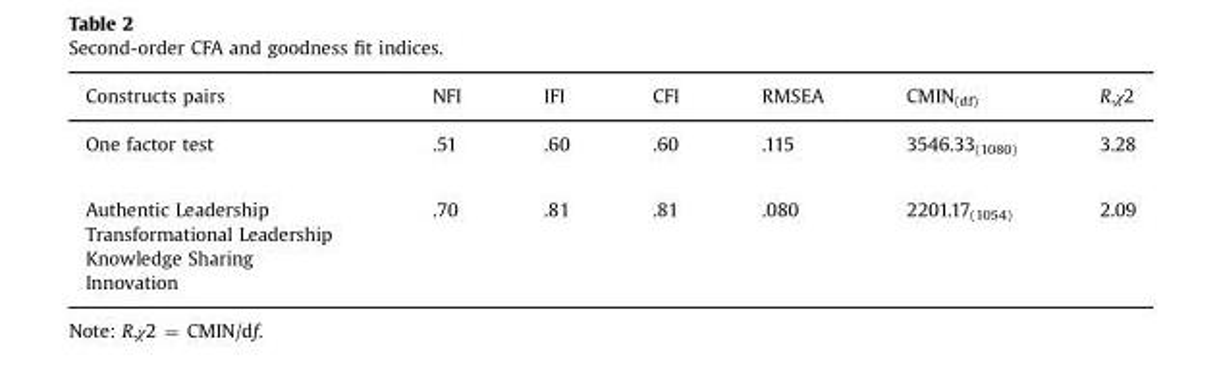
<table><thead><tr><td>Constructs pairs</td><td>NFI</td><td>IFI</td><td>CFI</td><td>RMSEA</td><td>CMIN<sub>(df)</sub></td><td>R.χ2</td></tr></thead><tbody><tr><td>One factor test</td><td>.51</td><td>.60</td><td>.60</td><td>.115</td><td>3546.33<sub>(1080)</sub></td><td>3.28</td></tr><tr><td>Authentic Leadership</td><td rowspan="4">.70</td><td rowspan="4">.81</td><td rowspan="4">.81</td><td rowspan="4">.080</td><td rowspan="4">2201.17<sub>(1054)</sub></td><td rowspan="4">2.09</td></tr><tr><td>Transformational Leadership</td></tr><tr><td>Knowledge Sharing</td></tr><tr><td>Innovation</td></tr></tbody></table>